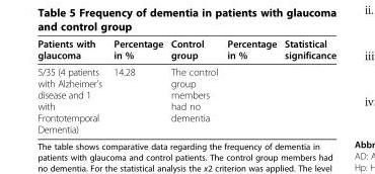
<table><thead><tr><td>Patients with glaucoma</td><td>Percentage in %</td><td>Control group</td><td>Percentage in %</td><td>Statistical significance</td></tr></thead><tbody><tr><td>5/35 (4 patients with Alzheimer’s disease and 1 with Frontotemporal Dementia)</td><td>14.28</td><td>The control group members had no dementia</td><td></td><td></td></tr></tbody></table>